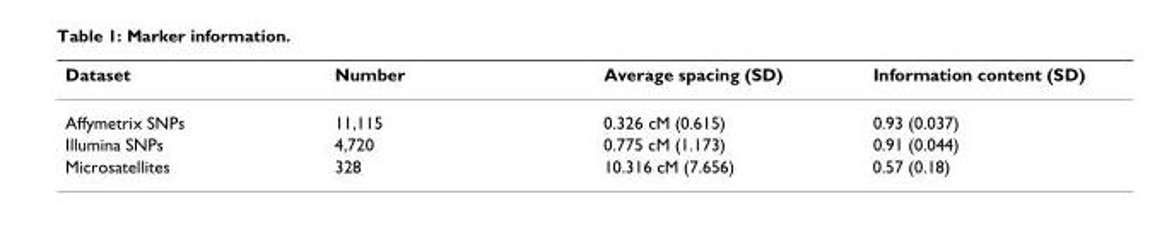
<table><thead><tr><td>Dataset</td><td>Number</td><td>Average spacing (SD)</td><td>Information content (SD)</td></tr></thead><tbody><tr><td>Affymetrix SNPs</td><td>11,115</td><td>0.326 cM (0.615)</td><td>0.93 (0.037)</td></tr><tr><td>Illumina SNPs</td><td>4,720</td><td>0.775 cM (1.173)</td><td>0.91 (0.044)</td></tr><tr><td>Microsatellites</td><td>328</td><td>10.316 cM (7.656)</td><td>0.57 (0.18)</td></tr></tbody></table>